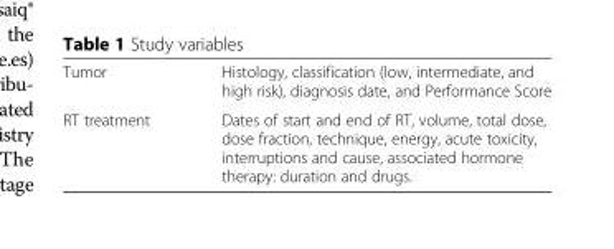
<table><tbody><tr><td>Tumor</td><td>Histology, classification (low, intermediate, and high risk), diagnosis date, and Performance Score</td></tr><tr><td>RT treatment</td><td>Dates of start and end of RT, volume, total dose, dose fraction, technique, energy, acute toxicity, interruptions and cause, associated hormone therapy: duration and drugs.</td></tr></tbody></table>